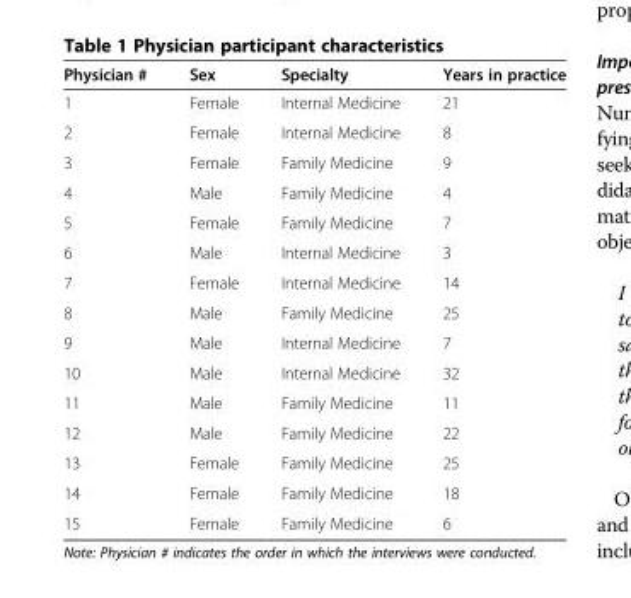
<table><thead><tr><td>Physician #</td><td>Sex</td><td>Specialty</td><td>Years in practice</td></tr></thead><tbody><tr><td>1</td><td>Female</td><td>Internal Medicine</td><td>21</td></tr><tr><td>2</td><td>Female</td><td>Internal Medicine</td><td>8</td></tr><tr><td>3</td><td>Female</td><td>Family Medicine</td><td>9</td></tr><tr><td>4</td><td>Male</td><td>Family Medicine</td><td>4</td></tr><tr><td>5</td><td>Female</td><td>Family Medicine</td><td>7</td></tr><tr><td>6</td><td>Male</td><td>Internal Medicine</td><td>3</td></tr><tr><td>7</td><td>Female</td><td>Internal Medicine</td><td>14</td></tr><tr><td>8</td><td>Male</td><td>Family Medicine</td><td>25</td></tr><tr><td>9</td><td>Male</td><td>Internal Medicine</td><td>7</td></tr><tr><td>10</td><td>Male</td><td>Internal Medicine</td><td>32</td></tr><tr><td>11</td><td>Male</td><td>Family Medicine</td><td>11</td></tr><tr><td>12</td><td>Male</td><td>Family Medicine</td><td>22</td></tr><tr><td>13</td><td>Female</td><td>Family Medicine</td><td>25</td></tr><tr><td>14</td><td>Female</td><td>Family Medicine</td><td>18</td></tr><tr><td>15</td><td>Female</td><td>Family Medicine</td><td>6</td></tr></tbody></table>